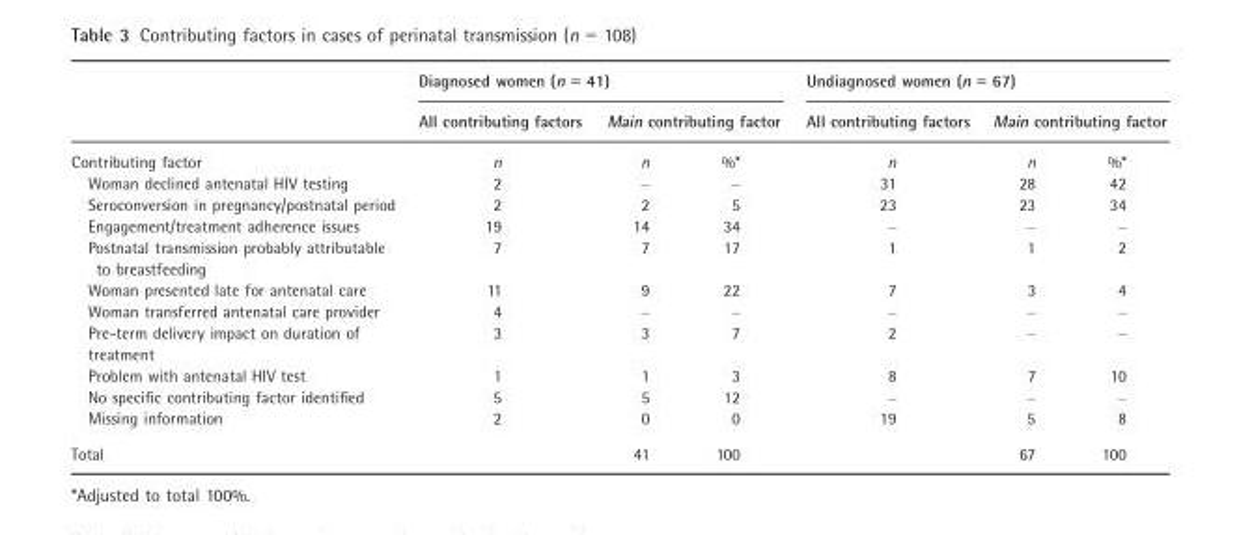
<table><thead><tr><td rowspan="3">Contributing factor</td><td colspan="3">Diagnosed women (n = 41)</td><td colspan="3">Undiagnosed women (n = 67)</td></tr><tr><td rowspan="2">All contributing factors n</td><td colspan="2">Main contributing factor</td><td rowspan="2">All contributing factors n</td><td colspan="2">Main contributing factor</td></tr><tr><td>n</td><td>%*</td><td>n</td><td>%*</td></tr></thead><tbody><tr><td>Woman declined antenatal HIV testing</td><td>2</td><td>–</td><td>–</td><td>31</td><td>28</td><td>42</td></tr><tr><td>Seroconversion in pregnancy/postnatal period</td><td>2</td><td>2</td><td>5</td><td>23</td><td>23</td><td>34</td></tr><tr><td>Engagement/treatment adherence issues</td><td>19</td><td>14</td><td>34</td><td>–</td><td>–</td><td>–</td></tr><tr><td>Postnatal transmission probably attributable to breastfeeding</td><td>7</td><td>7</td><td>17</td><td>1</td><td>1</td><td>2</td></tr><tr><td>Woman presented late for antenatal care</td><td>11</td><td>9</td><td>22</td><td>7</td><td>3</td><td>4</td></tr><tr><td>Woman transferred antenatal care provider</td><td>4</td><td>–</td><td>–</td><td>–</td><td>–</td><td>–</td></tr><tr><td>Pre-term delivery impact on duration of treatment</td><td>3</td><td>3</td><td>7</td><td>2</td><td>–</td><td>–</td></tr><tr><td>Problem with antenatal HIV test</td><td>1</td><td>1</td><td>3</td><td>8</td><td>7</td><td>10</td></tr><tr><td>No specific contributing factor identified</td><td>5</td><td>5</td><td>12</td><td>–</td><td>–</td><td>–</td></tr><tr><td>Missing information</td><td>2</td><td>0</td><td>0</td><td>19</td><td>5</td><td>8</td></tr><tr><td>Total</td><td></td><td>41</td><td>100</td><td></td><td>67</td><td>100</td></tr></tbody></table>